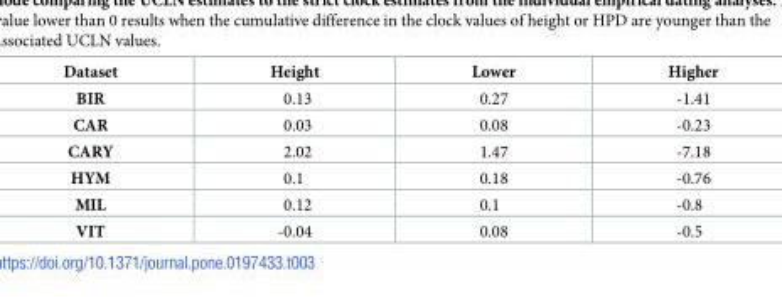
<table><thead><tr><td>Dataset</td><td>Height</td><td>Lower</td><td>Higher</td></tr></thead><tbody><tr><td>BIR</td><td>0.13</td><td>0.27</td><td>-1.41</td></tr><tr><td>CAR</td><td>0.03</td><td>0.08</td><td>-0.23</td></tr><tr><td>CARY</td><td>2.02</td><td>1.47</td><td>-7.18</td></tr><tr><td>HYM</td><td>0.1</td><td>0.18</td><td>-0.76</td></tr><tr><td>MIL</td><td>0.12</td><td>0.1</td><td>-0.8</td></tr><tr><td>VIT</td><td>-0.04</td><td>0.08</td><td>-0.5</td></tr></tbody></table>